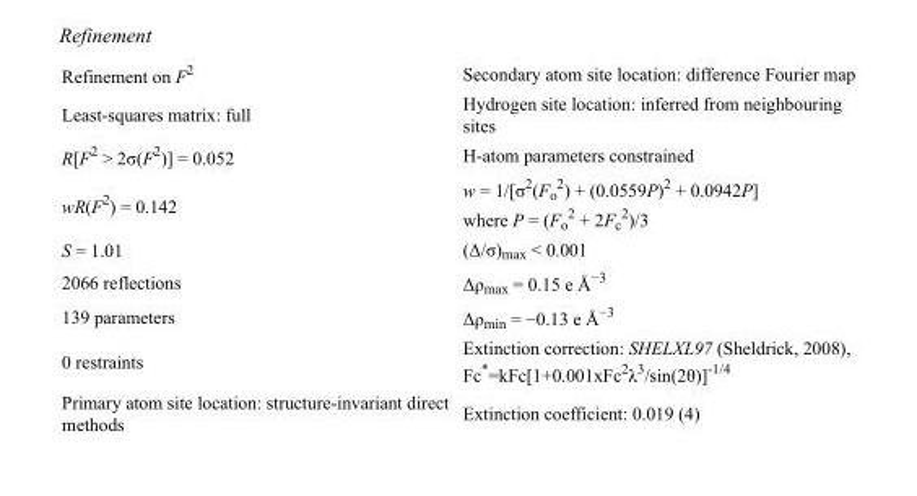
<table><tbody><tr><td>Refinement on F<sup>2</sup></td><td>Secondary atom site location: difference Fourier map</td></tr><tr><td>Least-squares matrix: full</td><td>Hydrogen site location: inferred from neighbouring sites</td></tr><tr><td>R[F<sup>2</sup> &gt; 2σ(F<sup>2</sup>)] = 0.052</td><td>H-atom parameters constrained</td></tr><tr><td>wR(F<sup>2</sup>) = 0.142</td><td>w = 1/[σ<sup>2</sup>(F<sub>o</sub> <sup>2</sup>) + (0.0559P)<sup>2</sup> + 0.0942P] where P = (F<sub>o</sub> <sup>2</sup> + 2F<sub>c</sub> <sup>2</sup>)/3</td></tr><tr><td>S = 1.01</td><td>(Δ/σ)<sub>max</sub> &lt; 0.001</td></tr><tr><td>2066 reflections</td><td>Δρ<sub>max</sub> = 0.15 e Å<sup>−3</sup></td></tr><tr><td>139 parameters</td><td>Δρ<sub>min</sub> = −0.13 e Å<sup>−3</sup></td></tr><tr><td>0 restraints</td><td>Extinction correction: SHELXL97 (Sheldrick, 2008), Fc*=kFc[1+0.001xFc<sup>2</sup>λ<sup>3</sup>/sin(2θ)]<sup>-1/4</sup></td></tr><tr><td>Primary atom site location: structure-invariant direct methods</td><td>Extinction coefficient: 0.019 (4)</td></tr></tbody></table>